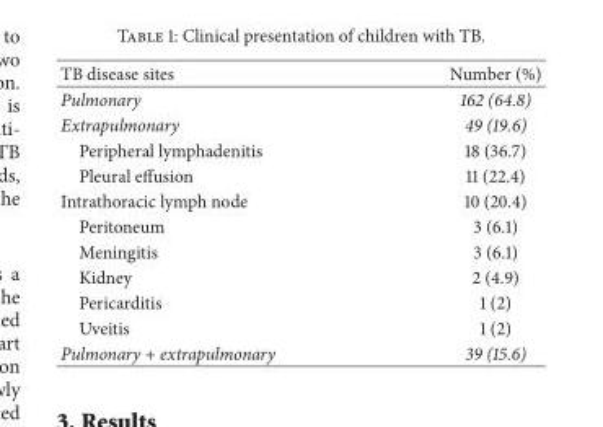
<table><thead><tr><td>TB disease sites</td><td>Number (%)</td></tr></thead><tbody><tr><td>Pulmonary</td><td>162 (64.8)</td></tr><tr><td>Extrapulmonary</td><td>49 (19.6)</td></tr><tr><td>Peripheral lymphadenitis</td><td>18 (36.7)</td></tr><tr><td>Pleural effusion</td><td>11 (22.4)</td></tr><tr><td>Intrathoracic lymph node</td><td>10 (20.4)</td></tr><tr><td>Peritoneum</td><td>3 (6.1)</td></tr><tr><td>Meningitis</td><td>3 (6.1)</td></tr><tr><td>Kidney</td><td>2 (4.9)</td></tr><tr><td>Pericarditis</td><td>1 (2)</td></tr><tr><td>Uveitis</td><td>1 (2)</td></tr><tr><td>Pulmonary + extrapulmonary</td><td>39 (15.6)</td></tr></tbody></table>